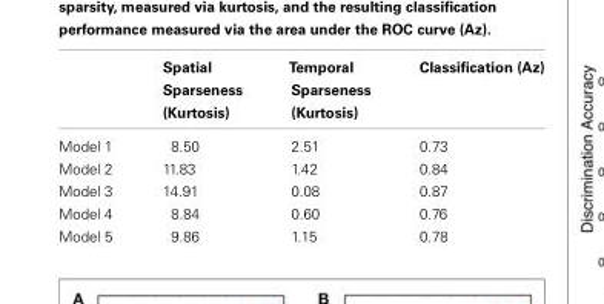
<table><thead><tr><td></td><td>Spatial Sparseness (Kurtosis)</td><td>Temporal Sparseness (Kurtosis)</td><td>Classification (Az)</td></tr></thead><tbody><tr><td>Model 1</td><td>8.50</td><td>2.51</td><td>0.73</td></tr><tr><td>Model 2</td><td>11.83</td><td>1.42</td><td>0.84</td></tr><tr><td>Model 3</td><td>14.91</td><td>0.08</td><td>0.87</td></tr><tr><td>Model 4</td><td>8.84</td><td>0.60</td><td>0.76</td></tr><tr><td>Model 5</td><td>9.86</td><td>1.15</td><td>0.78</td></tr></tbody></table>